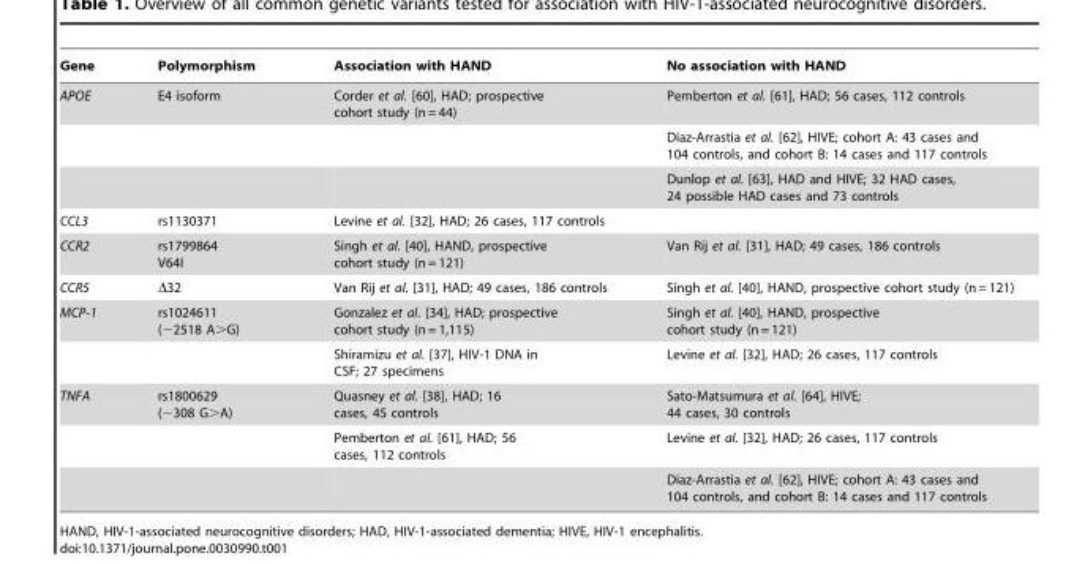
<table><thead><tr><td>Gene</td><td>Polymorphism</td><td>Association with HAND</td><td>No association with HAND</td></tr></thead><tbody><tr><td rowspan="3">APOE</td><td>E4 isoform</td><td>Corder et al. [60], HAD; prospective cohort study (n = 44)</td><td>Pemberton et al. [61], HAD; 56 cases, 112 controls</td></tr><tr><td></td><td></td><td>Diaz-Arrastia et al. [62], HIVE; cohort A: 43 cases and 104 controls, and cohort B: 14 cases and 117 controls</td></tr><tr><td></td><td></td><td>Dunlop et al. [63], HAD and HIVE; 32 HAD cases, 24 possible HAD cases and 73 controls</td></tr><tr><td>CCL3</td><td>rs1130371</td><td>Levine et al. [32], HAD; 26 cases, 117 controls</td><td></td></tr><tr><td>CCR2</td><td>rs1799864 V64I</td><td>Singh et al. [40], HAND, prospective cohort study (n = 121)</td><td>Van Rij et al. [31], HAD; 49 cases, 186 controls</td></tr><tr><td>CCR5</td><td>Δ32</td><td>Van Rij et al. [31], HAD; 49 cases, 186 controls</td><td>Singh et al. [40], HAND, prospective cohort study (n = 121)</td></tr><tr><td rowspan="2">MCP-1</td><td>rs1024611 (−2518 A&gt;G)</td><td>Gonzalez et al. [34], HAD; prospective cohort study (n = 1,115)</td><td>Singh et al. [40], HAND, prospective cohort study (n = 121)</td></tr><tr><td></td><td>Shiramizu et al. [37], HIV-1 DNA in CSF; 27 specimens</td><td>Levine et al. [32], HAD; 26 cases, 117 controls</td></tr><tr><td rowspan="3">TNFA</td><td>rs1800629 (−308 G&gt;A)</td><td>Quasney et al. [38], HAD; 16 cases, 45 controls</td><td>Sato-Matsumura et al. [64], HIVE; 44 cases, 30 controls</td></tr><tr><td></td><td>Pemberton et al. [61], HAD; 56 cases, 112 controls</td><td>Levine et al. [32], HAD; 26 cases, 117 controls</td></tr><tr><td></td><td></td><td>Diaz-Arrastia et al. [62], HIVE; cohort A: 43 cases and 104 controls, and cohort B: 14 cases and 117 controls</td></tr></tbody></table>